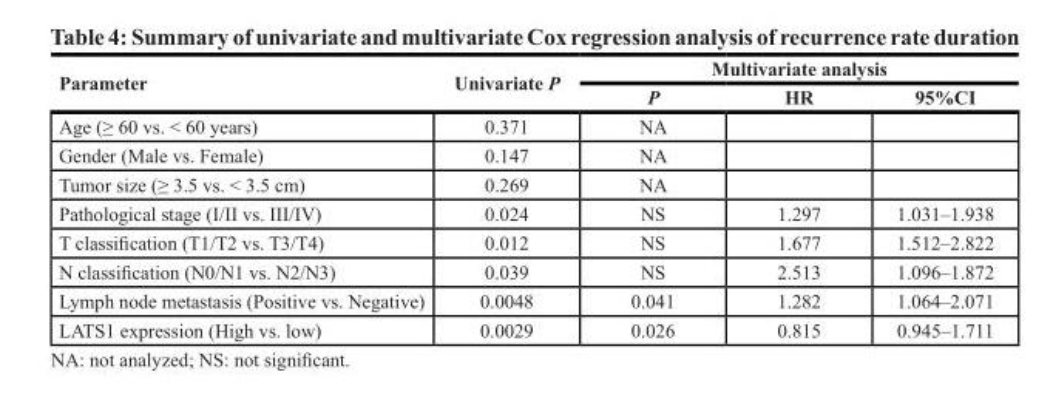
<table><thead><tr><td rowspan="2">Parameter</td><td rowspan="2">Univariate P</td><td colspan="3">Multivariate analysis</td></tr><tr><td>P</td><td>HR</td><td>95%CI</td></tr></thead><tbody><tr><td>Age (≥ 60 vs. &lt; 60 years)</td><td>0.371</td><td>NA</td><td></td><td></td></tr><tr><td>Gender (Male vs. Female)</td><td>0.147</td><td>NA</td><td></td><td></td></tr><tr><td>Tumor size (≥ 3.5 vs. &lt; 3.5 cm)</td><td>0.269</td><td>NA</td><td></td><td></td></tr><tr><td>Pathological stage (I/II vs. III/IV)</td><td>0.024</td><td>NS</td><td>1.297</td><td>1.031–1.938</td></tr><tr><td>T classification (T1/T2 vs. T3/T4)</td><td>0.012</td><td>NS</td><td>1.677</td><td>1.512–2.822</td></tr><tr><td>N classification (N0/N1 vs. N2/N3)</td><td>0.039</td><td>NS</td><td>2.513</td><td>1.096–1.872</td></tr><tr><td>Lymph node metastasis (Positive vs. Negative)</td><td>0.0048</td><td>0.041</td><td>1.282</td><td>1.064–2.071</td></tr><tr><td>LATS1 expression (High vs. low)</td><td>0.0029</td><td>0.026</td><td>0.815</td><td>0.945–1.711</td></tr></tbody></table>